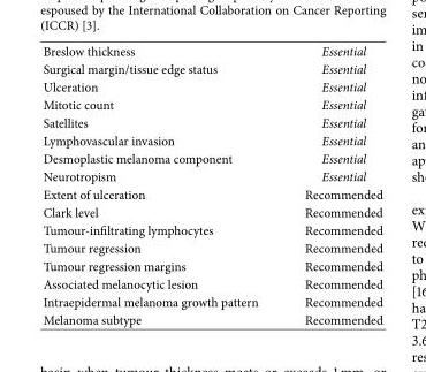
<table><tbody><tr><td>Breslow thickness</td><td>Essential</td></tr><tr><td>Surgical margin/tissue edge status</td><td>Essential</td></tr><tr><td>Ulceration</td><td>Essential</td></tr><tr><td>Mitotic count</td><td>Essential</td></tr><tr><td>Satellites</td><td>Essential</td></tr><tr><td>Lymphovascular invasion</td><td>Essential</td></tr><tr><td>Desmoplastic melanoma component</td><td>Essential</td></tr><tr><td>Neurotropism</td><td>Essential</td></tr><tr><td>Extent of ulceration</td><td>Recommended</td></tr><tr><td>Clark level</td><td>Recommended</td></tr><tr><td>Tumour-infiltrating lymphocytes</td><td>Recommended</td></tr><tr><td>Tumour regression</td><td>Recommended</td></tr><tr><td>Tumour regression margins</td><td>Recommended</td></tr><tr><td>Associated melanocytic lesion</td><td>Recommended</td></tr><tr><td>Intraepidermal melanoma growth pattern</td><td>Recommended</td></tr><tr><td>Melanoma subtype</td><td>Recommended</td></tr></tbody></table>